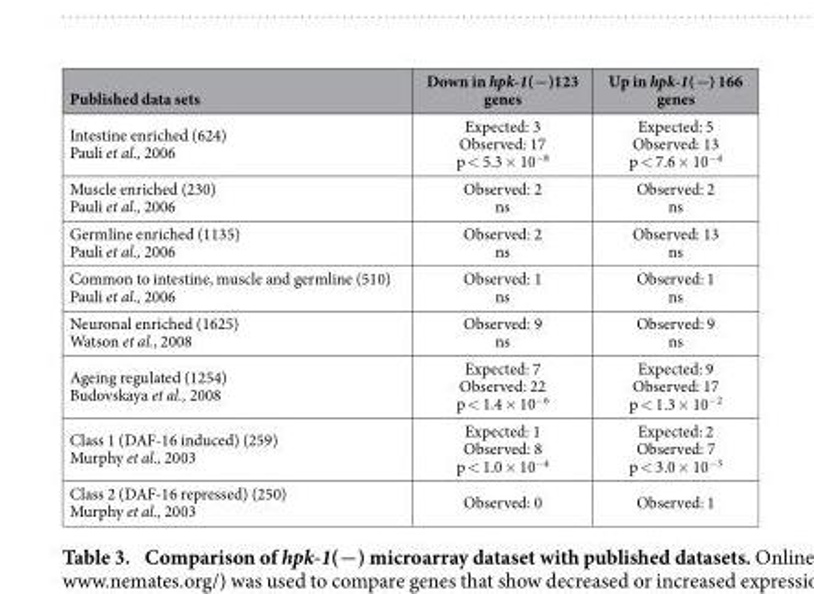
<table><thead><tr><td>Published data sets</td><td>Down in hpk-1(−)123 genes</td><td>Up in hpk-1(−) 166 genes</td></tr></thead><tbody><tr><td>Intestine enriched (624) Pauli et al., 2006</td><td>Expected: 3 Observed: 17 p &lt; 5.3 × 10<sup>−8</sup></td><td>Expected: 5 Observed: 13 p &lt; 7.6 × 10<sup>−4</sup></td></tr><tr><td>Muscle enriched (230) Pauli et al., 2006</td><td>Observed: 2 ns</td><td>Observed: 2 ns</td></tr><tr><td>Germline enriched (1135) Pauli et al., 2006</td><td>Observed: 2 ns</td><td>Observed: 13 ns</td></tr><tr><td>Common to intestine, muscle and germline (510) Pauli et al., 2006</td><td>Observed: 1 ns</td><td>Observed: 1 ns</td></tr><tr><td>Neuronal enriched (1625) Watson et al., 2008</td><td>Observed: 9 ns</td><td>Observed: 9 ns</td></tr><tr><td>Ageing regulated (1254) Budovskaya et al., 2008</td><td>Expected: 7 Observed: 22 p &lt; 1.4 × 10<sup>−6</sup></td><td>Expected: 9 Observed: 17 p &lt; 1.3 × 10<sup>−2</sup></td></tr><tr><td>Class 1 (DAF-16 induced) (259) Murphy et al., 2003</td><td>Expected: 1 Observed: 8 p &lt; 1.0 × 10<sup>−4</sup></td><td>Expected: 2 Observed: 7 p &lt; 3.0 × 10<sup>−3</sup></td></tr><tr><td>Class 2 (DAF-16 repressed) (250) Murphy et al., 2003</td><td>Observed: 0</td><td>Observed: 1</td></tr></tbody></table>